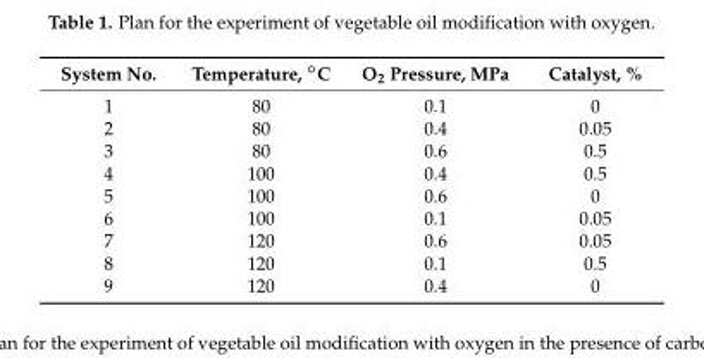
<table><thead><tr><td>System No.</td><td>Temperature, ◦C</td><td>O<sub>2</sub> Pressure, MPa</td><td>Catalyst, %</td></tr></thead><tbody><tr><td>1</td><td>80</td><td>0.1</td><td>0</td></tr><tr><td>2</td><td>80</td><td>0.4</td><td>0.05</td></tr><tr><td>3</td><td>80</td><td>0.6</td><td>0.5</td></tr><tr><td>4</td><td>100</td><td>0.4</td><td>0.5</td></tr><tr><td>5</td><td>100</td><td>0.6</td><td>0</td></tr><tr><td>6</td><td>100</td><td>0.1</td><td>0.05</td></tr><tr><td>7</td><td>120</td><td>0.6</td><td>0.05</td></tr><tr><td>8</td><td>120</td><td>0.1</td><td>0.5</td></tr><tr><td>9</td><td>120</td><td>0.4</td><td>0</td></tr></tbody></table>